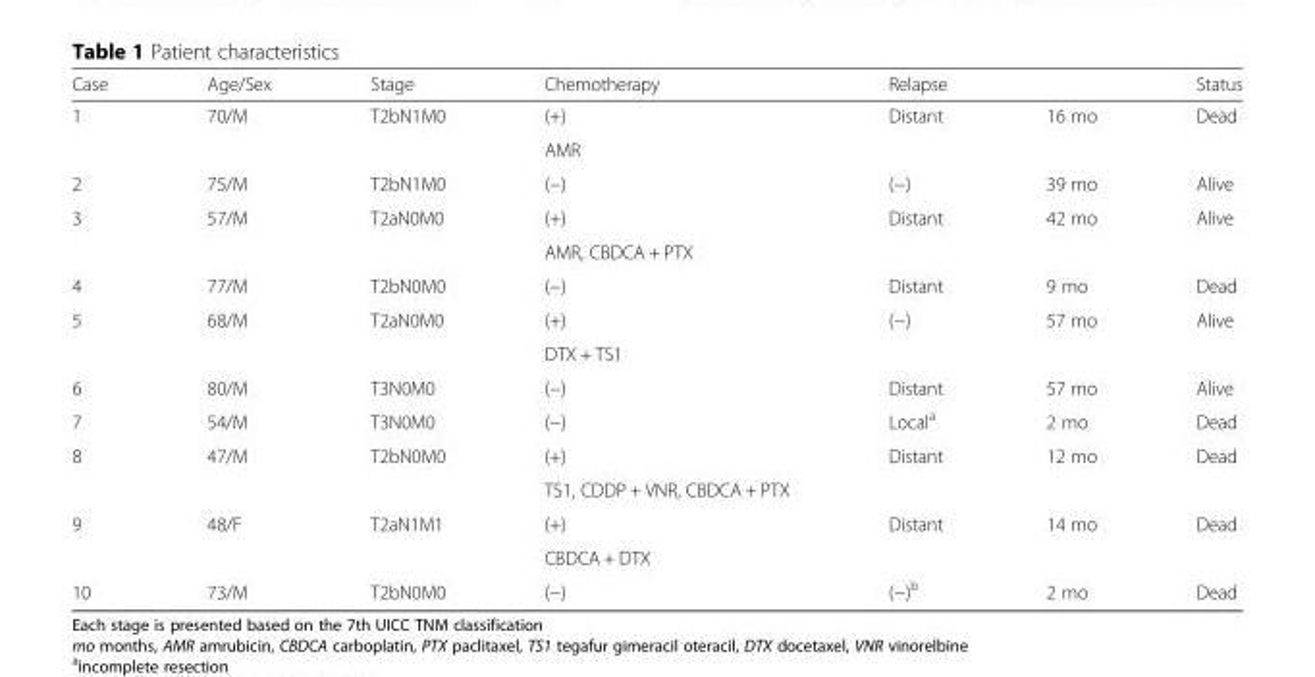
<table><thead><tr><td>Case</td><td>Age/Sex</td><td>Stage</td><td>Chemotherapy</td><td>Relapse</td><td></td><td>Status</td></tr></thead><tbody><tr><td rowspan="2">1</td><td rowspan="2">70/M</td><td rowspan="2">T2bN1M0</td><td>(+)</td><td rowspan="2">Distant</td><td rowspan="2">16 mo</td><td rowspan="2">Dead</td></tr><tr><td>AMR</td></tr><tr><td>2</td><td>75/M</td><td>T2bN1M0</td><td>(−)</td><td>(−)</td><td>39 mo</td><td>Alive</td></tr><tr><td rowspan="2">3</td><td rowspan="2">57/M</td><td rowspan="2">T2aN0M0</td><td>(+)</td><td rowspan="2">Distant</td><td rowspan="2">42 mo</td><td rowspan="2">Alive</td></tr><tr><td>AMR, CBDCA + PTX</td></tr><tr><td>4</td><td>77/M</td><td>T2bN0M0</td><td>(−)</td><td>Distant</td><td>9 mo</td><td>Dead</td></tr><tr><td rowspan="2">5</td><td rowspan="2">68/M</td><td rowspan="2">T2aN0M0</td><td>(+)</td><td rowspan="2">(−)</td><td rowspan="2">57 mo</td><td rowspan="2">Alive</td></tr><tr><td>DTX + TS1</td></tr><tr><td>6</td><td>80/M</td><td>T3N0M0</td><td>(−)</td><td>Distant</td><td>57 mo</td><td>Alive</td></tr><tr><td>7</td><td>54/M</td><td>T3N0M0</td><td>(−)</td><td>Local<sup>a</sup></td><td>2 mo</td><td>Dead</td></tr><tr><td rowspan="2">8</td><td rowspan="2">47/M</td><td rowspan="2">T2bN0M0</td><td>(+)</td><td rowspan="2">Distant</td><td rowspan="2">12 mo</td><td rowspan="2">Dead</td></tr><tr><td>TS1, CDDP + VNR, CBDCA + PTX</td></tr><tr><td rowspan="2">9</td><td rowspan="2">48/F</td><td rowspan="2">T2aN1M1</td><td>(+)</td><td rowspan="2">Distant</td><td rowspan="2">14 mo</td><td rowspan="2">Dead</td></tr><tr><td>CBDCA + DTX</td></tr><tr><td>10</td><td>73/M</td><td>T2bN0M0</td><td>(−)</td><td>(−)<sup>b</sup></td><td>2 mo</td><td>Dead</td></tr></tbody></table>